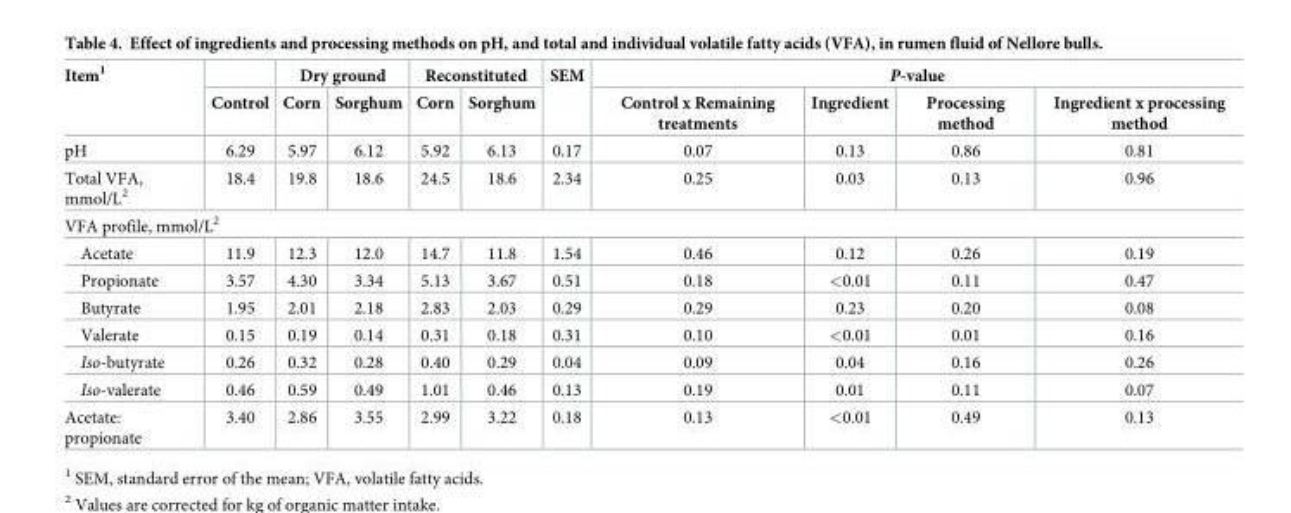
<table><thead><tr><td rowspan="2">Item<sup>1</sup></td><td rowspan="2">Control</td><td colspan="2">Dry ground</td><td colspan="2">Reconstituted</td><td rowspan="2">SEM</td><td colspan="4">P-value</td></tr><tr><td>Corn</td><td>Sorghum</td><td>Corn</td><td>Sorghum</td><td>Control x Remaining treatments</td><td>Ingredient</td><td>Processing method</td><td>Ingredient x processing method</td></tr></thead><tbody><tr><td>pH</td><td>6.29</td><td>5.97</td><td>6.12</td><td>5.92</td><td>6.13</td><td>0.17</td><td>0.07</td><td>0.13</td><td>0.86</td><td>0.81</td></tr><tr><td>Total VFA, mmol/L<sup>2</sup></td><td>18.4</td><td>19.8</td><td>18.6</td><td>24.5</td><td>18.6</td><td>2.34</td><td>0.25</td><td>0.03</td><td>0.13</td><td>0.96</td></tr><tr><td colspan="11">VFA profile, mmol/L<sup>2</sup></td></tr><tr><td>Acetate</td><td>11.9</td><td>12.3</td><td>12.0</td><td>14.7</td><td>11.8</td><td>1.54</td><td>0.46</td><td>0.12</td><td>0.26</td><td>0.19</td></tr><tr><td>Propionate</td><td>3.57</td><td>4.30</td><td>3.34</td><td>5.13</td><td>3.67</td><td>0.51</td><td>0.18</td><td>&lt;0.01</td><td>0.11</td><td>0.47</td></tr><tr><td>Butyrate</td><td>1.95</td><td>2.01</td><td>2.18</td><td>2.83</td><td>2.03</td><td>0.29</td><td>0.29</td><td>0.23</td><td>0.20</td><td>0.08</td></tr><tr><td>Valerate</td><td>0.15</td><td>0.19</td><td>0.14</td><td>0.31</td><td>0.18</td><td>0.31</td><td>0.10</td><td>&lt;0.01</td><td>0.01</td><td>0.16</td></tr><tr><td>Iso-butyrate</td><td>0.26</td><td>0.32</td><td>0.28</td><td>0.40</td><td>0.29</td><td>0.04</td><td>0.09</td><td>0.04</td><td>0.16</td><td>0.26</td></tr><tr><td>Iso-valerate</td><td>0.46</td><td>0.59</td><td>0.49</td><td>1.01</td><td>0.46</td><td>0.13</td><td>0.19</td><td>0.01</td><td>0.11</td><td>0.07</td></tr><tr><td>Acetate: propionate</td><td>3.40</td><td>2.86</td><td>3.55</td><td>2.99</td><td>3.22</td><td>0.18</td><td>0.13</td><td>&lt;0.01</td><td>0.49</td><td>0.13</td></tr></tbody></table>